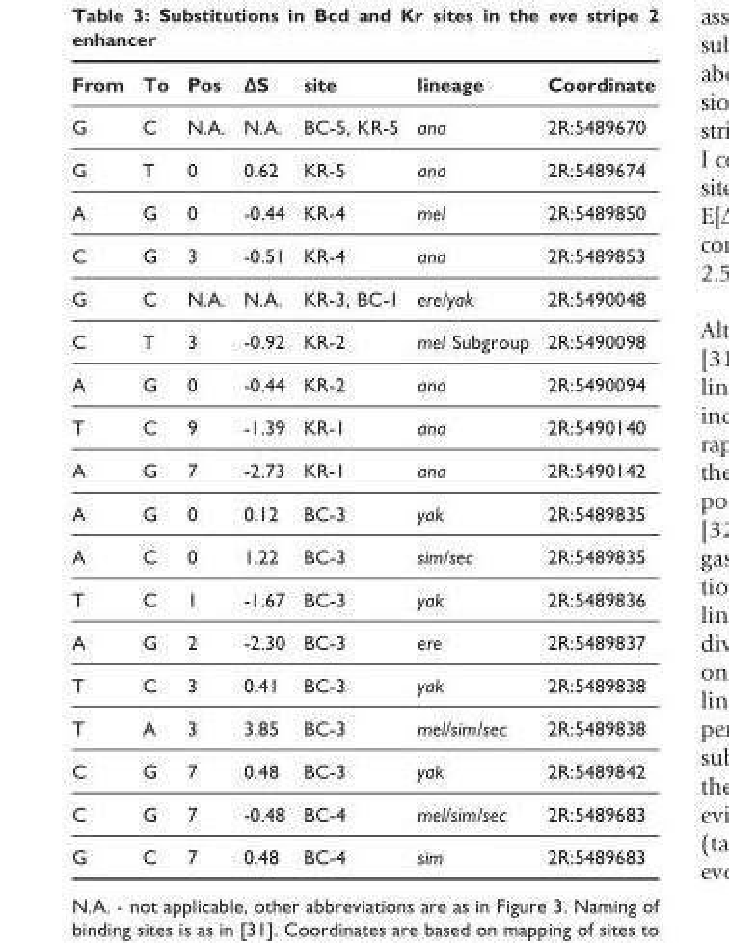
<table><thead><tr><td>From</td><td>To</td><td>Pos</td><td>ΔS</td><td>site</td><td>lineage</td><td>Coordinate</td></tr></thead><tbody><tr><td>G</td><td>C</td><td>N.A.</td><td>N.A.</td><td>BC-5, KR-5</td><td>ana</td><td>2R:5489670</td></tr><tr><td>G</td><td>T</td><td>0</td><td>0.62</td><td>KR-5</td><td>ana</td><td>2R:5489674</td></tr><tr><td>A</td><td>G</td><td>0</td><td>-0.44</td><td>KR-4</td><td>mel</td><td>2R:5489850</td></tr><tr><td>C</td><td>G</td><td>3</td><td>-0.51</td><td>KR-4</td><td>ana</td><td>2R:5489853</td></tr><tr><td>G</td><td>C</td><td>N.A.</td><td>N.A.</td><td>KR-3, BC-1</td><td>ere/yak</td><td>2R:5490048</td></tr><tr><td>C</td><td>T</td><td>3</td><td>-0.92</td><td>KR-2</td><td>mel Subgroup</td><td>2R:5490098</td></tr><tr><td>A</td><td>G</td><td>0</td><td>-0.44</td><td>KR-2</td><td>ana</td><td>2R:5490094</td></tr><tr><td>T</td><td>C</td><td>9</td><td>-1.39</td><td>KR-1</td><td>ana</td><td>2R:5490140</td></tr><tr><td>A</td><td>G</td><td>7</td><td>-2.73</td><td>KR-1</td><td>ana</td><td>2R:5490142</td></tr><tr><td>A</td><td>G</td><td>0</td><td>0.12</td><td>BC-3</td><td>yak</td><td>2R:5489835</td></tr><tr><td>A</td><td>C</td><td>0</td><td>1.22</td><td>BC-3</td><td>sim/sec</td><td>2R:5489835</td></tr><tr><td>T</td><td>C</td><td>1</td><td>-1.67</td><td>BC-3</td><td>yak</td><td>2R:5489836</td></tr><tr><td>A</td><td>G</td><td>2</td><td>-2.30</td><td>BC-3</td><td>ere</td><td>2R:5489837</td></tr><tr><td>T</td><td>C</td><td>3</td><td>0.41</td><td>BC-3</td><td>yak</td><td>2R:5489838</td></tr><tr><td>T</td><td>A</td><td>3</td><td>3.85</td><td>BC-3</td><td>mel/sim/sec</td><td>2R:5489838</td></tr><tr><td>C</td><td>G</td><td>7</td><td>0.48</td><td>BC-3</td><td>yak</td><td>2R:5489842</td></tr><tr><td>C</td><td>G</td><td>7</td><td>-0.48</td><td>BC-4</td><td>mel/sim/sec</td><td>2R:5489683</td></tr><tr><td>G</td><td>C</td><td>7</td><td>0.48</td><td>BC-4</td><td>sim</td><td>2R:5489683</td></tr></tbody></table>